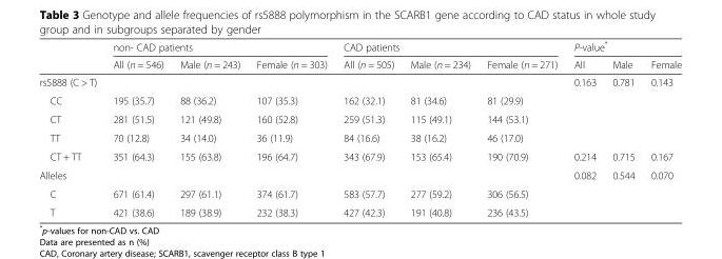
<table><thead><tr><td rowspan="2"></td><td colspan="3">non- CAD patients</td><td colspan="3">CAD patients</td><td colspan="3">P-value*</td></tr><tr><td>All (n = 546)</td><td>Male (n = 243)</td><td>Female (n = 303)</td><td>All (n = 505)</td><td>Male (n = 234)</td><td>Female (n = 271)</td><td>All</td><td>Male</td><td>Female</td></tr></thead><tbody><tr><td>rs5888 (C &gt; T)</td><td></td><td></td><td></td><td></td><td></td><td></td><td>0.163</td><td>0.781</td><td>0.143</td></tr><tr><td>CC</td><td>195 (35.7)</td><td>88 (36.2)</td><td>107 (35.3)</td><td>162 (32.1)</td><td>81 (34.6)</td><td>81 (29.9)</td><td></td><td></td><td></td></tr><tr><td>CT</td><td>281 (51.5)</td><td>121 (49.8)</td><td>160 (52.8)</td><td>259 (51.3)</td><td>115 (49.1)</td><td>144 (53.1)</td><td></td><td></td><td></td></tr><tr><td>TT</td><td>70 (12.8)</td><td>34 (14.0)</td><td>36 (11.9)</td><td>84 (16.6)</td><td>38 (16.2)</td><td>46 (17.0)</td><td></td><td></td><td></td></tr><tr><td>CT + TT</td><td>351 (64.3)</td><td>155 (63.8)</td><td>196 (64.7)</td><td>343 (67.9)</td><td>153 (65.4)</td><td>190 (70.9)</td><td>0.214</td><td>0.715</td><td>0.167</td></tr><tr><td>Alleles</td><td></td><td></td><td></td><td></td><td></td><td></td><td>0.082</td><td>0.544</td><td>0.070</td></tr><tr><td>C</td><td>671 (61.4)</td><td>297 (61.1)</td><td>374 (61.7)</td><td>583 (57.7)</td><td>277 (59.2)</td><td>306 (56.5)</td><td></td><td></td><td></td></tr><tr><td>T</td><td>421 (38.6)</td><td>189 (38.9)</td><td>232 (38.3)</td><td>427 (42.3)</td><td>191 (40.8)</td><td>236 (43.5)</td><td></td><td></td><td></td></tr></tbody></table>